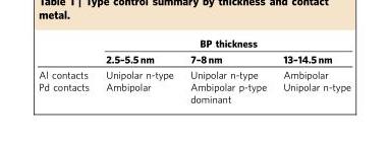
<table><thead><tr><td rowspan="2"></td><td colspan="3">BP thickness</td></tr><tr><td>2.5–5.5 nm</td><td>7–8 nm</td><td>13–14.5 nm</td></tr></thead><tbody><tr><td>Al contacts</td><td>Unipolar n-type</td><td>Unipolar n-type</td><td>Ambipolar</td></tr><tr><td>Pd contacts</td><td>Ambipolar</td><td>Ambipolar p-type dominant</td><td>Unipolar n-type</td></tr></tbody></table>